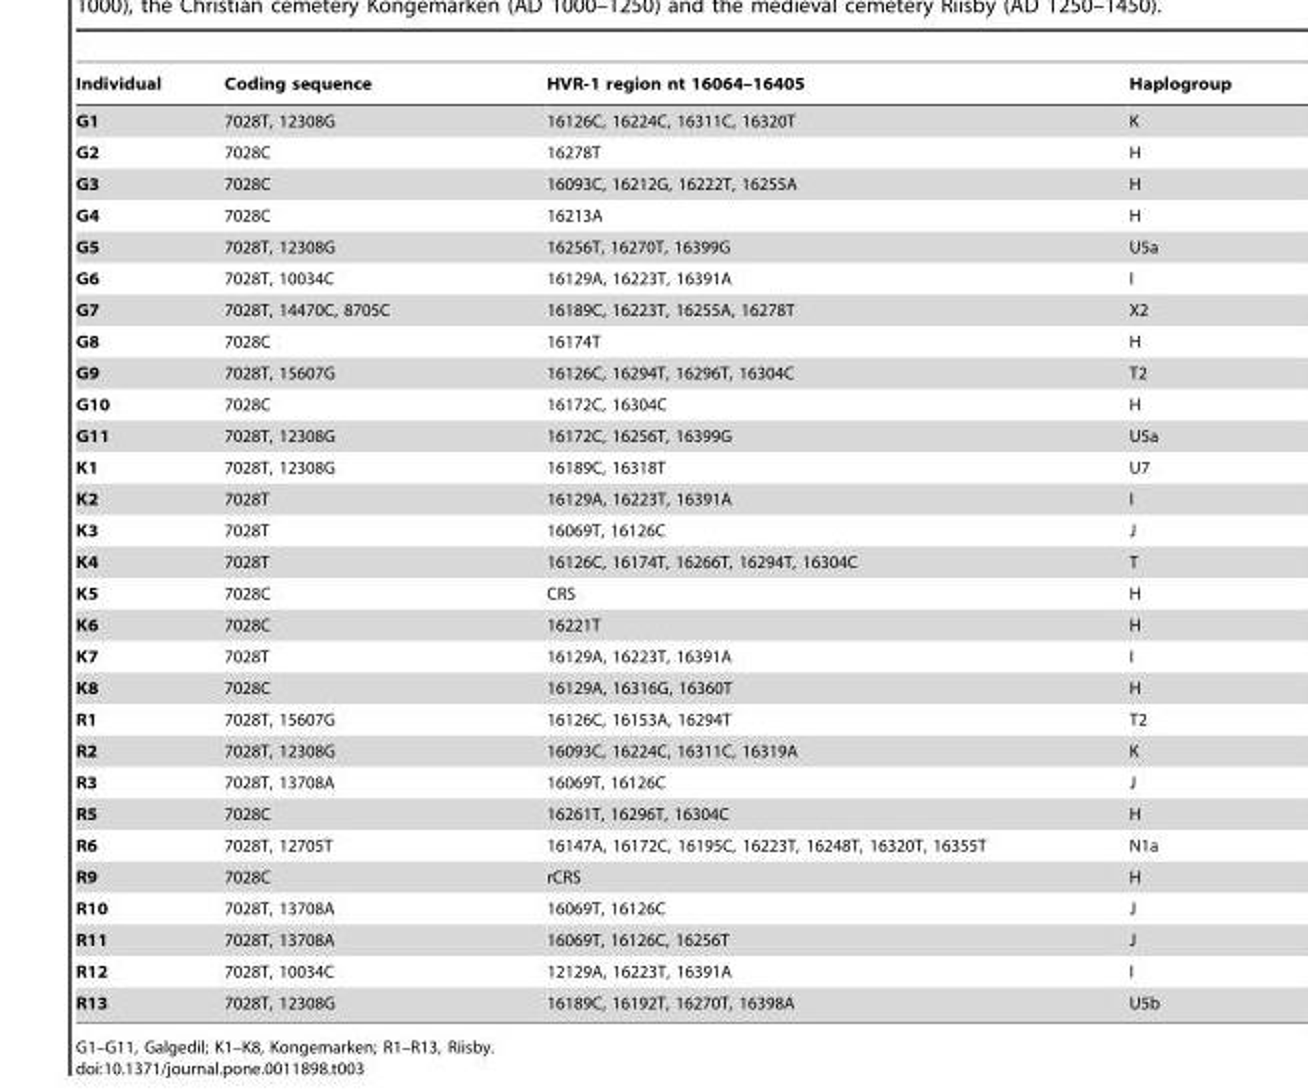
<table><thead><tr><td>Individual</td><td>Coding sequence</td><td>HVR-1 region nt 16064–16405</td><td>Haplogroup</td></tr></thead><tbody><tr><td>G1</td><td>7028T, 12308G</td><td>16126C, 16224C, 16311C, 16320T</td><td>K</td></tr><tr><td>G2</td><td>7028C</td><td>16278T</td><td>H</td></tr><tr><td>G3</td><td>7028C</td><td>16093C, 16212G, 16222T, 16255A</td><td>H</td></tr><tr><td>G4</td><td>7028C</td><td>16213A</td><td>H</td></tr><tr><td>G5</td><td>7028T, 12308G</td><td>16256T, 16270T, 16399G</td><td>U5a</td></tr><tr><td>G6</td><td>7028T, 10034C</td><td>16129A, 16223T, 16391A</td><td>I</td></tr><tr><td>G7</td><td>7028T, 14470C, 8705C</td><td>16189C, 16223T, 16255A, 16278T</td><td>X2</td></tr><tr><td>G8</td><td>7028C</td><td>16174T</td><td>H</td></tr><tr><td>G9</td><td>7028T, 15607G</td><td>16126C, 16294T, 16296T, 16304C</td><td>T2</td></tr><tr><td>G10</td><td>7028C</td><td>16172C, 16304C</td><td>H</td></tr><tr><td>G11</td><td>7028T, 12308G</td><td>16172C, 16256T, 16399G</td><td>U5a</td></tr><tr><td>K1</td><td>7028T, 12308G</td><td>16189C, 16318T</td><td>U7</td></tr><tr><td>K2</td><td>7028T</td><td>16129A, 16223T, 16391A</td><td>I</td></tr><tr><td>K3</td><td>7028T</td><td>16069T, 16126C</td><td>J</td></tr><tr><td>K4</td><td>7028T</td><td>16126C, 16174T, 16266T, 16294T, 16304C</td><td>T</td></tr><tr><td>K5</td><td>7028C</td><td>CRS</td><td>H</td></tr><tr><td>K6</td><td>7028C</td><td>16221T</td><td>H</td></tr><tr><td>K7</td><td>7028T</td><td>16129A, 16223T, 16391A</td><td>I</td></tr><tr><td>K8</td><td>7028C</td><td>16129A, 16316G, 16360T</td><td>H</td></tr><tr><td>R1</td><td>7028T, 15607G</td><td>16126C, 16153A, 16294T</td><td>T2</td></tr><tr><td>R2</td><td>7028T, 12308G</td><td>16093C, 16224C, 16311C, 16319A</td><td>K</td></tr><tr><td>R3</td><td>7028T, 13708A</td><td>16069T, 16126C</td><td>J</td></tr><tr><td>R5</td><td>7028C</td><td>16261T, 16296T, 16304C</td><td>H</td></tr><tr><td>R6</td><td>7028T, 12705T</td><td>16147A, 16172C, 16195C, 16223T, 16248T, 16320T, 16355T</td><td>N1a</td></tr><tr><td>R9</td><td>7028C</td><td>rCRS</td><td>H</td></tr><tr><td>R10</td><td>7028T, 13708A</td><td>16069T, 16126C</td><td>J</td></tr><tr><td>R11</td><td>7028T, 13708A</td><td>16069T, 16126C, 16256T</td><td>J</td></tr><tr><td>R12</td><td>7028T, 10034C</td><td>12129A, 16223T, 16391A</td><td>I</td></tr><tr><td>R13</td><td>7028T, 12308G</td><td>16189C, 16192T, 16270T, 16398A</td><td>U5b</td></tr></tbody></table>